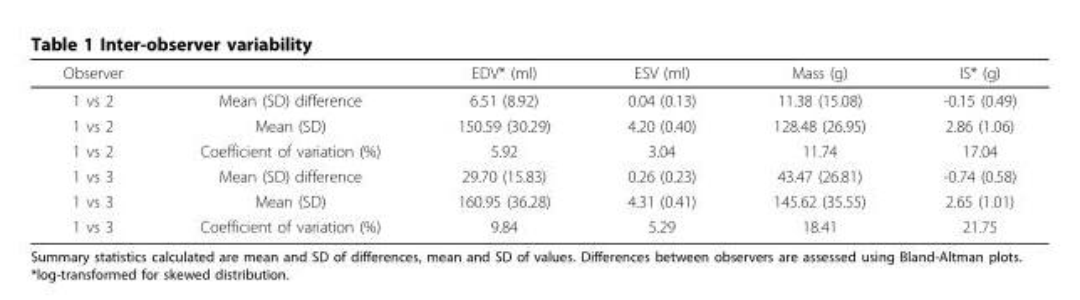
<table><thead><tr><td>Observer</td><td></td><td>EDV* (ml)</td><td>ESV (ml)</td><td>Mass (g)</td><td>IS* (g)</td></tr></thead><tbody><tr><td>1 vs 2</td><td>Mean (SD) difference</td><td>6.51 (8.92)</td><td>0.04 (0.13)</td><td>11.38 (15.08)</td><td>-0.15 (0.49)</td></tr><tr><td>1 vs 2</td><td>Mean (SD)</td><td>150.59 (30.29)</td><td>4.20 (0.40)</td><td>128.48 (26.95)</td><td>2.86 (1.06)</td></tr><tr><td>1 vs 2</td><td>Coefficient of variation (%)</td><td>5.92</td><td>3.04</td><td>11.74</td><td>17.04</td></tr><tr><td>1 vs 3</td><td>Mean (SD) difference</td><td>29.70 (15.83)</td><td>0.26 (0.23)</td><td>43.47 (26.81)</td><td>-0.74 (0.58)</td></tr><tr><td>1 vs 3</td><td>Mean (SD)</td><td>160.95 (36.28)</td><td>4.31 (0.41)</td><td>145.62 (35.55)</td><td>2.65 (1.01)</td></tr><tr><td>1 vs 3</td><td>Coefficient of variation (%)</td><td>9.84</td><td>5.29</td><td>18.41</td><td>21.75</td></tr></tbody></table>